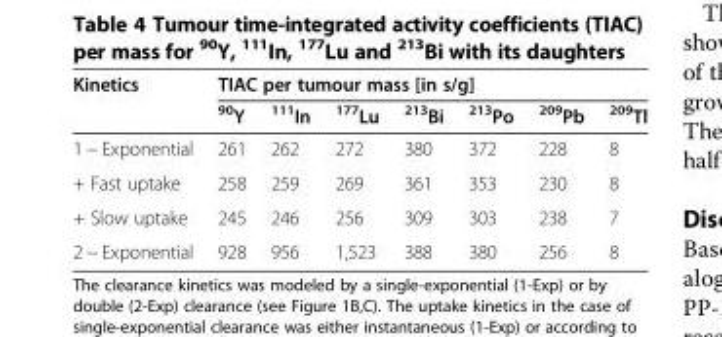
<table><thead><tr><td rowspan="2">Kinetics</td><td colspan="7">TIAC per tumour mass [in s/g]</td></tr><tr><td><sup>90</sup>Y</td><td><sup>111</sup>In</td><td><sup>177</sup>Lu</td><td><sup>213</sup>Bi</td><td><sup>213</sup>Po</td><td><sup>209</sup>Pb</td><td><sup>209</sup>Tl</td></tr></thead><tbody><tr><td>1 − Exponential</td><td>261</td><td>262</td><td>272</td><td>380</td><td>372</td><td>228</td><td>8</td></tr><tr><td>+ Fast uptake</td><td>258</td><td>259</td><td>269</td><td>361</td><td>353</td><td>230</td><td>8</td></tr><tr><td>+ Slow uptake</td><td>245</td><td>246</td><td>256</td><td>309</td><td>303</td><td>238</td><td>7</td></tr><tr><td>2 − Exponential</td><td>928</td><td>956</td><td>1,523</td><td>388</td><td>380</td><td>256</td><td>8</td></tr></tbody></table>